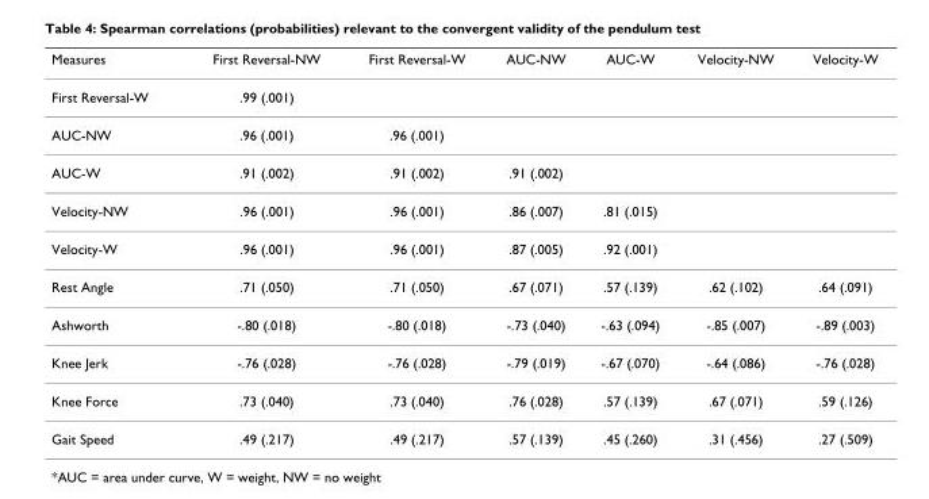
<table><thead><tr><td>Measures</td><td>First Reversal-NW</td><td>First Reversal-W</td><td>AUC-NW</td><td>AUC-W</td><td>Velocity-NW</td><td>Velocity-W</td></tr></thead><tbody><tr><td>First Reversal-W</td><td>.99 (.001)</td><td></td><td></td><td></td><td></td><td></td></tr><tr><td>AUC-NW</td><td>.96 (.001)</td><td>.96 (.001)</td><td></td><td></td><td></td><td></td></tr><tr><td>AUC-W</td><td>.91 (.002)</td><td>.91 (.002)</td><td>.91 (.002)</td><td></td><td></td><td></td></tr><tr><td>Velocity-NW</td><td>.96 (.001)</td><td>.96 (.001)</td><td>.86 (.007)</td><td>.81 (.015)</td><td></td><td></td></tr><tr><td>Velocity-W</td><td>.96 (.001)</td><td>.96 (.001)</td><td>.87 (.005)</td><td>.92 (.001)</td><td></td><td></td></tr><tr><td>Rest Angle</td><td>.71 (.050)</td><td>.71 (.050)</td><td>.67 (.071)</td><td>.57 (.139)</td><td>.62 (.102)</td><td>.64 (.091)</td></tr><tr><td>Ashworth</td><td>-.80 (.018)</td><td>-.80 (.018)</td><td>-.73 (.040)</td><td>-.63 (.094)</td><td>-.85 (.007)</td><td>-.89 (.003)</td></tr><tr><td>Knee Jerk</td><td>-.76 (.028)</td><td>-.76 (.028)</td><td>-.79 (.019)</td><td>-.67 (.070)</td><td>-.64 (.086)</td><td>-.76 (.028)</td></tr><tr><td>Knee Force</td><td>.73 (.040)</td><td>.73 (.040)</td><td>.76 (.028)</td><td>.57 (.139)</td><td>.67 (.071)</td><td>.59 (.126)</td></tr><tr><td>Gait Speed</td><td>.49 (.217)</td><td>.49 (.217)</td><td>.57 (.139)</td><td>.45 (.260)</td><td>.31 (.456)</td><td>.27 (.509)</td></tr></tbody></table>